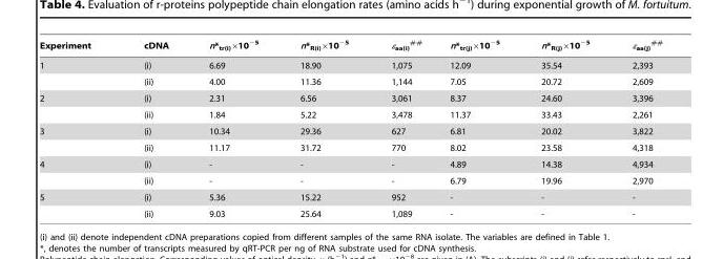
<table><thead><tr><td>Experiment</td><td>cDNA</td><td>n*<sub>tr(i)</sub>×10<sup>−5</sup></td><td>n*<sub>R(i)</sub>×10<sup>−5</sup></td><td>ε<sub>aa(i)</sub> ##</td><td>n*<sub>tr(j)</sub>×10<sup>−5</sup></td><td>n*<sub>R(j)</sub>×10<sup>−5</sup></td><td>ε<sub>aa(j)</sub> ##</td></tr></thead><tbody><tr><td rowspan="2">1</td><td>(i)</td><td>6.69</td><td>18.90</td><td>1,075</td><td>12.09</td><td>35.54</td><td>2,393</td></tr><tr><td>(ii)</td><td>4.00</td><td>11.36</td><td>1,144</td><td>7.05</td><td>20.72</td><td>2,609</td></tr><tr><td rowspan="2">2</td><td>(i)</td><td>2.31</td><td>6.56</td><td>3,061</td><td>8.37</td><td>24.60</td><td>3,396</td></tr><tr><td>(ii)</td><td>1.84</td><td>5.22</td><td>3,478</td><td>11.37</td><td>33.43</td><td>2,261</td></tr><tr><td rowspan="2">3</td><td>(i)</td><td>10.34</td><td>29.36</td><td>627</td><td>6.81</td><td>20.02</td><td>3,822</td></tr><tr><td>(ii)</td><td>11.17</td><td>31.72</td><td>770</td><td>8.02</td><td>23.58</td><td>4,318</td></tr><tr><td rowspan="2">4</td><td>(i)</td><td>-</td><td>-</td><td>-</td><td>4.89</td><td>14.38</td><td>4,934</td></tr><tr><td>(ii)</td><td>-</td><td>-</td><td>-</td><td>6.79</td><td>19.96</td><td>2,970</td></tr><tr><td rowspan="2">5</td><td>(i)</td><td>5.36</td><td>15.22</td><td>952</td><td>-</td><td>-</td><td>-</td></tr><tr><td>(ii)</td><td>9.03</td><td>25.64</td><td>1,089</td><td>-</td><td>-</td><td>-</td></tr></tbody></table>